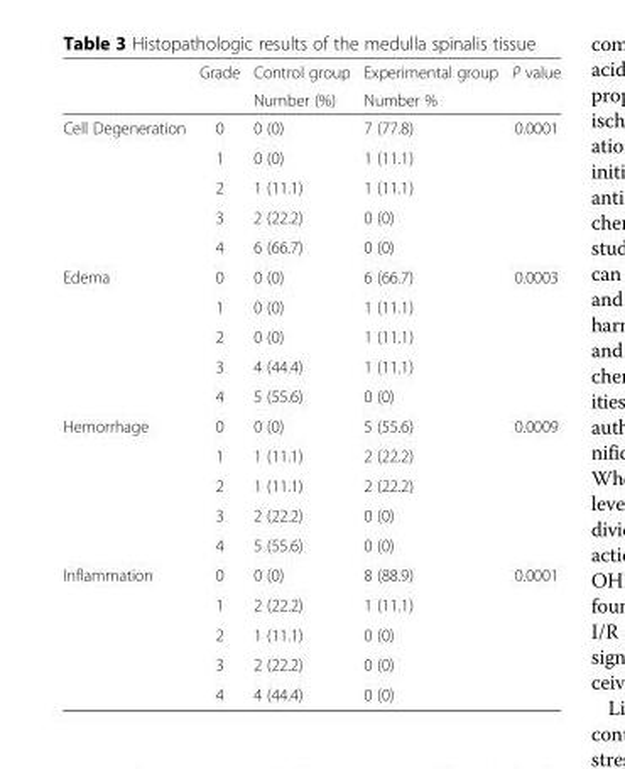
<table><thead><tr><td rowspan="2"></td><td rowspan="2">Grade</td><td rowspan="2">Control group Number (%)</td><td rowspan="2">Experimental group Number %</td><td rowspan="2">P value</td></tr><tr></tr></thead><tbody><tr><td rowspan="5">Cell Degeneration</td><td>0</td><td>0 (0)</td><td>7 (77.8)</td><td rowspan="5">0.0001</td></tr><tr><td>1</td><td>0 (0)</td><td>1 (11.1)</td></tr><tr><td>2</td><td>1 (11.1)</td><td>1 (11.1)</td></tr><tr><td>3</td><td>2 (22.2)</td><td>0 (0)</td></tr><tr><td>4</td><td>6 (66.7)</td><td>0 (0)</td></tr><tr><td rowspan="5">Edema</td><td>0</td><td>0 (0)</td><td>6 (66.7)</td><td rowspan="5">0.0003</td></tr><tr><td>1</td><td>0 (0)</td><td>1 (11.1)</td></tr><tr><td>2</td><td>0 (0)</td><td>1 (11.1)</td></tr><tr><td>3</td><td>4 (44.4)</td><td>1 (11.1)</td></tr><tr><td>4</td><td>5 (55.6)</td><td>0 (0)</td></tr><tr><td rowspan="5">Hemorrhage</td><td>0</td><td>0 (0)</td><td>5 (55.6)</td><td rowspan="5">0.0009</td></tr><tr><td>1</td><td>1 (11.1)</td><td>2 (22.2)</td></tr><tr><td>2</td><td>1 (11.1)</td><td>2 (22.2)</td></tr><tr><td>3</td><td>2 (22.2)</td><td>0 (0)</td></tr><tr><td>4</td><td>5 (55.6)</td><td>0 (0)</td></tr><tr><td rowspan="5">Inflammation</td><td>0</td><td>0 (0)</td><td>8 (88.9)</td><td rowspan="5">0.0001</td></tr><tr><td>1</td><td>2 (22.2)</td><td>1 (11.1)</td></tr><tr><td>2</td><td>1 (11.1)</td><td>0 (0)</td></tr><tr><td>3</td><td>2 (22.2)</td><td>0 (0)</td></tr><tr><td>4</td><td>4 (44.4)</td><td>0 (0)</td></tr></tbody></table>